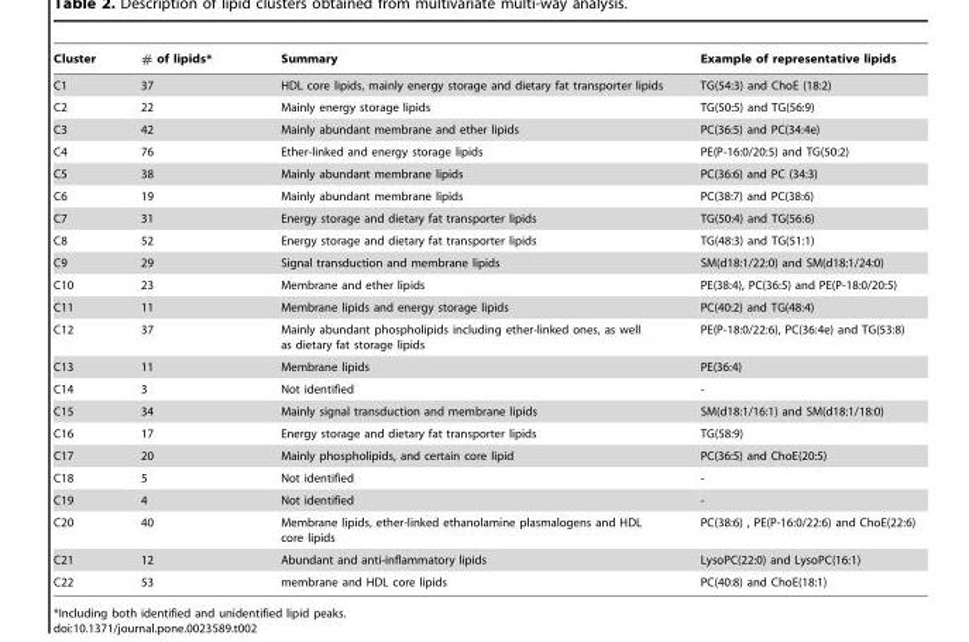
<table><thead><tr><td>Cluster</td><td># of lipids*</td><td>Summary</td><td>Example of representative lipids</td></tr></thead><tbody><tr><td>C1</td><td>37</td><td>HDL core lipids, mainly energy storage and dietary fat transporter lipids</td><td>TG(54:3) and ChoE (18:2)</td></tr><tr><td>C2</td><td>22</td><td>Mainly energy storage lipids</td><td>TG(50:5) and TG(56:9)</td></tr><tr><td>C3</td><td>42</td><td>Mainly abundant membrane and ether lipids</td><td>PC(36:5) and PC(34:4e)</td></tr><tr><td>C4</td><td>76</td><td>Ether-linked and energy storage lipids</td><td>PE(P-16:0/20:5) and TG(50:2)</td></tr><tr><td>C5</td><td>38</td><td>Mainly abundant membrane lipids</td><td>PC(36:6) and PC (34:3)</td></tr><tr><td>C6</td><td>19</td><td>Mainly abundant membrane lipids</td><td>PC(38:7) and PC(38:6)</td></tr><tr><td>C7</td><td>31</td><td>Energy storage and dietary fat transporter lipids</td><td>TG(50:4) and TG(56:6)</td></tr><tr><td>C8</td><td>52</td><td>Energy storage and dietary fat transporter lipids</td><td>TG(48:3) and TG(51:1)</td></tr><tr><td>C9</td><td>29</td><td>Signal transduction and membrane lipids</td><td>SM(d18:1/22:0) and SM(d18:1/24:0)</td></tr><tr><td>C10</td><td>23</td><td>Membrane and ether lipids</td><td>PE(38:4), PC(36:5) and PE(P-18:0/20:5)</td></tr><tr><td>C11</td><td>11</td><td>Membrane lipids and energy storage lipids</td><td>PC(40:2) and TG(48:4)</td></tr><tr><td>C12</td><td>37</td><td>Mainly abundant phospholipids including ether-linked ones, as well as dietary fat storage lipids</td><td>PE(P-18:0/22:6), PC(36:4e) and TG(53:8)</td></tr><tr><td>C13</td><td>11</td><td>Membrane lipids</td><td>PE(36:4)</td></tr><tr><td>C14</td><td>3</td><td>Not identified</td><td>-</td></tr><tr><td>C15</td><td>34</td><td>Mainly signal transduction and membrane lipids</td><td>SM(d18:1/16:1) and SM(d18:1/18:0)</td></tr><tr><td>C16</td><td>17</td><td>Energy storage and dietary fat transporter lipids</td><td>TG(58:9)</td></tr><tr><td>C17</td><td>20</td><td>Mainly phospholipids, and certain core lipid</td><td>PC(36:5) and ChoE(20:5)</td></tr><tr><td>C18</td><td>5</td><td>Not identified</td><td>-</td></tr><tr><td>C19</td><td>4</td><td>Not identified</td><td>-</td></tr><tr><td>C20</td><td>40</td><td>Membrane lipids, ether-linked ethanolamine plasmalogens and HDL core lipids</td><td>PC(38:6) , PE(P-16:0/22:6) and ChoE(22:6)</td></tr><tr><td>C21</td><td>12</td><td>Abundant and anti-inflammatory lipids</td><td>LysoPC(22:0) and LysoPC(16:1)</td></tr><tr><td>C22</td><td>53</td><td>membrane and HDL core lipids</td><td>PC(40:8) and ChoE(18:1)</td></tr></tbody></table>